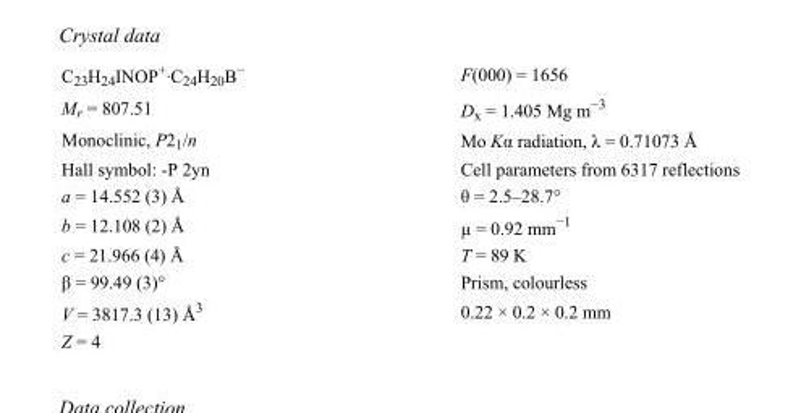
<table><tbody><tr><td>C<sub>23</sub>H<sub>24</sub>INOP<sup>+</sup>·C<sub>24</sub>H<sub>20</sub>B<sup>−</sup></td><td>F(000) = 1656</td></tr><tr><td>M<sub>r</sub> = 807.51</td><td>D<sub>x</sub> = 1.405 Mg m<sup>−3</sup></td></tr><tr><td>Monoclinic, P2<sub>1</sub>/n</td><td>Mo Kα radiation, λ = 0.71073 Å</td></tr><tr><td>Hall symbol: -P 2yn</td><td>Cell parameters from 6317 reflections</td></tr><tr><td>a = 14.552 (3) Å</td><td>θ = 2.5–28.7°</td></tr><tr><td>b = 12.108 (2) Å</td><td>µ = 0.92 mm<sup>−1</sup></td></tr><tr><td>c = 21.966 (4) Å</td><td>T = 89 K</td></tr><tr><td>β = 99.49 (3)°</td><td>Prism, colourless</td></tr><tr><td>V = 3817.3 (13) Å<sup>3</sup></td><td>0.22 × 0.2 × 0.2 mm</td></tr><tr><td>Z = 4</td><td></td></tr></tbody></table>